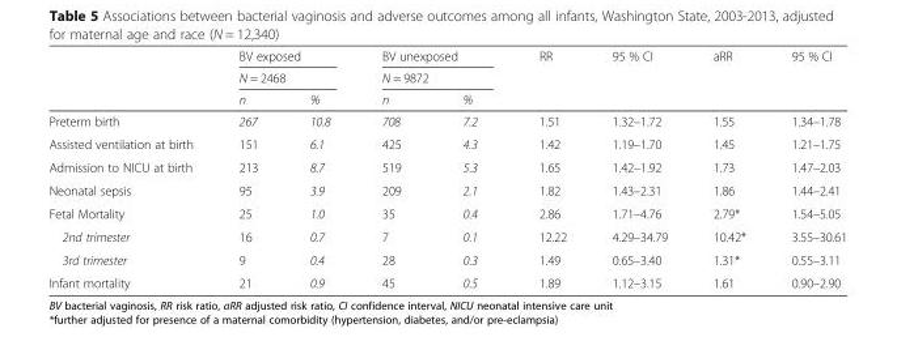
<table><thead><tr><td rowspan="3"></td><td rowspan="2" colspan="2">BV exposed N = 2468</td><td rowspan="2" colspan="2">BV unexposed N = 9872</td><td rowspan="3">RR</td><td rowspan="3">95 % CI</td><td rowspan="3">aRR</td><td rowspan="3">95 % CI</td></tr><tr></tr><tr><td>n</td><td>%</td><td>n</td><td>%</td></tr></thead><tbody><tr><td>Preterm birth</td><td>267</td><td>10.8</td><td>708</td><td>7.2</td><td>1.51</td><td>1.32–1.72</td><td>1.55</td><td>1.34–1.78</td></tr><tr><td>Assisted ventilation at birth</td><td>151</td><td>6.1</td><td>425</td><td>4.3</td><td>1.42</td><td>1.19–1.70</td><td>1.45</td><td>1.21–1.75</td></tr><tr><td>Admission to NICU at birth</td><td>213</td><td>8.7</td><td>519</td><td>5.3</td><td>1.65</td><td>1.42–1.92</td><td>1.73</td><td>1.47–2.03</td></tr><tr><td>Neonatal sepsis</td><td>95</td><td>3.9</td><td>209</td><td>2.1</td><td>1.82</td><td>1.43–2.31</td><td>1.86</td><td>1.44–2.41</td></tr><tr><td>Fetal Mortality</td><td>25</td><td>1.0</td><td>35</td><td>0.4</td><td>2.86</td><td>1.71–4.76</td><td>2.79*</td><td>1.54–5.05</td></tr><tr><td>2nd trimester</td><td>16</td><td>0.7</td><td>7</td><td>0.1</td><td>12.22</td><td>4.29–34.79</td><td>10.42*</td><td>3.55–30.61</td></tr><tr><td>3rd trimester</td><td>9</td><td>0.4</td><td>28</td><td>0.3</td><td>1.49</td><td>0.65–3.40</td><td>1.31*</td><td>0.55–3.11</td></tr><tr><td>Infant mortality</td><td>21</td><td>0.9</td><td>45</td><td>0.5</td><td>1.89</td><td>1.12–3.15</td><td>1.61</td><td>0.90–2.90</td></tr></tbody></table>